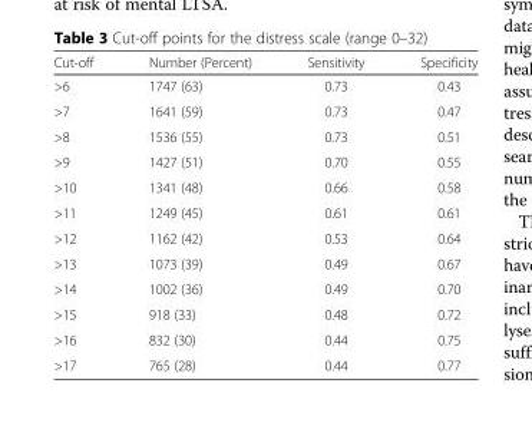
<table><thead><tr><td>Cut-off</td><td>Number (Percent)</td><td>Sensitivity</td><td>Specificity</td></tr></thead><tbody><tr><td>&gt;6</td><td>1747 (63)</td><td>0.73</td><td>0.43</td></tr><tr><td>&gt;7</td><td>1641 (59)</td><td>0.73</td><td>0.47</td></tr><tr><td>&gt;8</td><td>1536 (55)</td><td>0.73</td><td>0.51</td></tr><tr><td>&gt;9</td><td>1427 (51)</td><td>0.70</td><td>0.55</td></tr><tr><td>&gt;10</td><td>1341 (48)</td><td>0.66</td><td>0.58</td></tr><tr><td>&gt;11</td><td>1249 (45)</td><td>0.61</td><td>0.61</td></tr><tr><td>&gt;12</td><td>1162 (42)</td><td>0.53</td><td>0.64</td></tr><tr><td>&gt;13</td><td>1073 (39)</td><td>0.49</td><td>0.67</td></tr><tr><td>&gt;14</td><td>1002 (36)</td><td>0.49</td><td>0.70</td></tr><tr><td>&gt;15</td><td>918 (33)</td><td>0.48</td><td>0.72</td></tr><tr><td>&gt;16</td><td>832 (30)</td><td>0.44</td><td>0.75</td></tr><tr><td>&gt;17</td><td>765 (28)</td><td>0.44</td><td>0.77</td></tr></tbody></table>